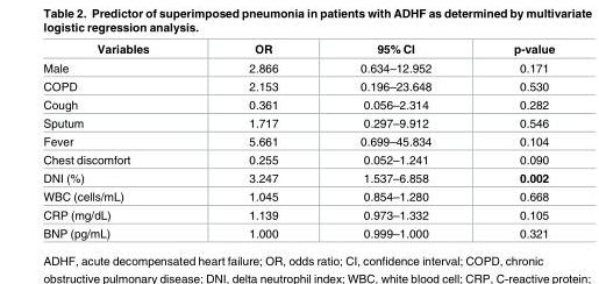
<table><thead><tr><td>Variables</td><td>OR</td><td>95% CI</td><td>p-value</td></tr></thead><tbody><tr><td>Male</td><td>2.866</td><td>0.634–12.952</td><td>0.171</td></tr><tr><td>COPD</td><td>2.153</td><td>0.196–23.648</td><td>0.530</td></tr><tr><td>Cough</td><td>0.361</td><td>0.056–2.314</td><td>0.282</td></tr><tr><td>Sputum</td><td>1.717</td><td>0.297–9.912</td><td>0.546</td></tr><tr><td>Fever</td><td>5.661</td><td>0.699–45.834</td><td>0.104</td></tr><tr><td>Chest discomfort</td><td>0.255</td><td>0.052–1.241</td><td>0.090</td></tr><tr><td>DNI (%)</td><td>3.247</td><td>1.537–6.858</td><td>0.002</td></tr><tr><td>WBC (cells/mL)</td><td>1.045</td><td>0.854–1.280</td><td>0.668</td></tr><tr><td>CRP (mg/dL)</td><td>1.139</td><td>0.973–1.332</td><td>0.105</td></tr><tr><td>BNP (pg/mL)</td><td>1.000</td><td>0.999–1.000</td><td>0.321</td></tr></tbody></table>